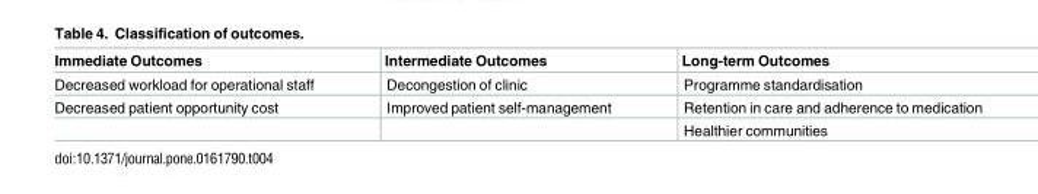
<table><thead><tr><td>Immediate Outcomes</td><td>Intermediate Outcomes</td><td>Long-term Outcomes</td></tr></thead><tbody><tr><td>Decreased workload for operational staff</td><td>Decongestion of clinic</td><td>Programme standardisation</td></tr><tr><td rowspan="2">Decreased patient opportunity cost</td><td>Improved patient self-management</td><td>Retention in care and adherence to medication</td></tr><tr><td></td><td>Healthier communities</td></tr></tbody></table>